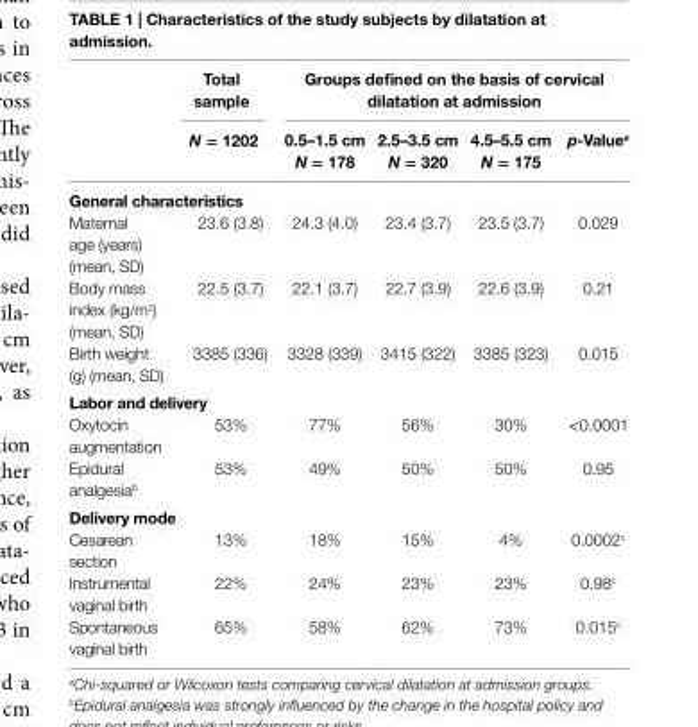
<table><thead><tr><td rowspan="2"></td><td rowspan="2">Total sample N = 1202</td><td colspan="4">groups defined on the basis of cervical dilatation at admission</td></tr><tr><td>0.5–1.5 cm N = 178</td><td>2.5–3.5 cm N = 320</td><td>4.5–5.5 cm N = 175</td><td>p-Value<sup>a</sup></td></tr></thead><tbody><tr><td colspan="6">general characteristics</td></tr><tr><td>Maternal age (years) (mean, SD)</td><td>23.6 (3.8)</td><td>24.3 (4.0)</td><td>23.4 (3.7)</td><td>23.5 (3.7)</td><td>0.029</td></tr><tr><td>Body mass index (kg/m<sup>2</sup>) (mean, SD)</td><td>22.5 (3.7)</td><td>22.1 (3.7)</td><td>22.7 (3.9)</td><td>22.6 (3.9)</td><td>0.21</td></tr><tr><td>Birth weight (g) (mean, SD)</td><td>3385 (336)</td><td>3328 (339)</td><td>3415 (322)</td><td>3385 (323)</td><td>0.015</td></tr><tr><td colspan="6">labor and delivery</td></tr><tr><td>Oxytocin augmentation</td><td>53%</td><td>77%</td><td>56%</td><td>30%</td><td>&lt;0.0001</td></tr><tr><td>Epidural analgesia<sup>b</sup></td><td>53%</td><td>49%</td><td>50%</td><td>50%</td><td>0.95</td></tr><tr><td colspan="6">Delivery mode</td></tr><tr><td>Cesarean section</td><td>13%</td><td>18%</td><td>15%</td><td>4%</td><td>0.0002<sup>c</sup></td></tr><tr><td>Instrumental vaginal birth</td><td>22%</td><td>24%</td><td>23%</td><td>23%</td><td>0.98<sup>c</sup></td></tr><tr><td>Spontaneous vaginal birth</td><td>65%</td><td>58%</td><td>62%</td><td>73%</td><td>0.015<sup>c</sup></td></tr></tbody></table>